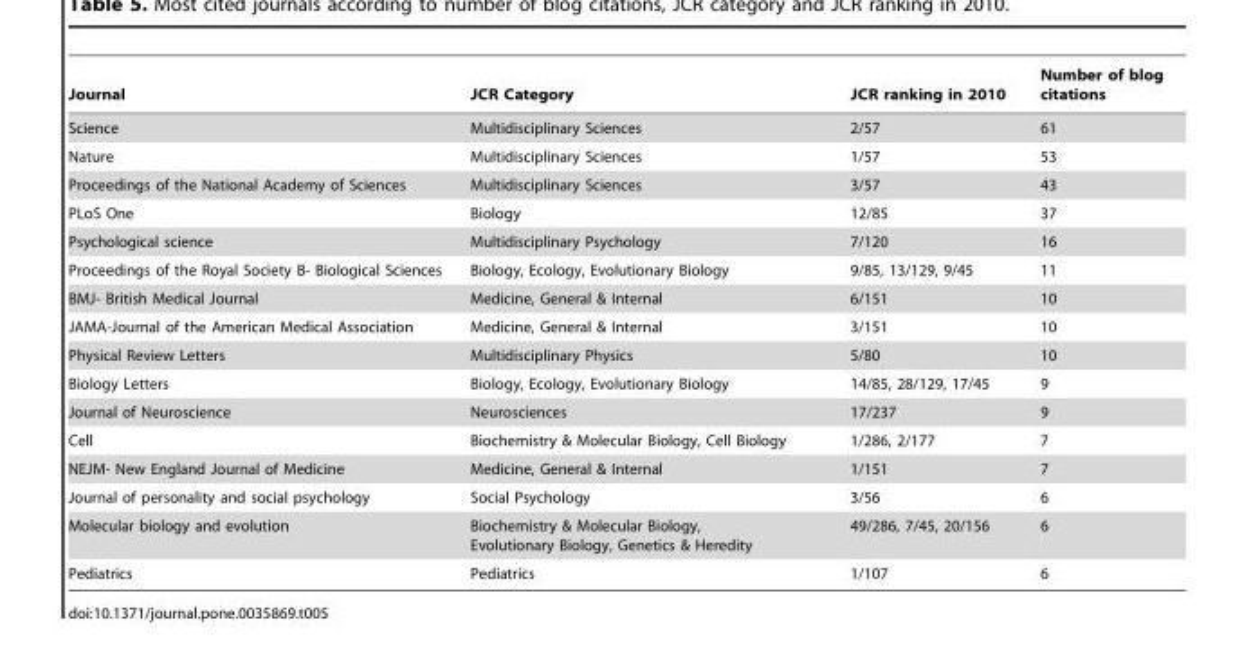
<table><thead><tr><td>Journal</td><td>JCR Category</td><td>JCR ranking in 2010</td><td>Number of blog citations</td></tr></thead><tbody><tr><td>Science</td><td>Multidisciplinary Sciences</td><td>2/57</td><td>61</td></tr><tr><td>Nature</td><td>Multidisciplinary Sciences</td><td>1/57</td><td>53</td></tr><tr><td>Proceedings of the National Academy of Sciences</td><td>Multidisciplinary Sciences</td><td>3/57</td><td>43</td></tr><tr><td>PLoS One</td><td>Biology</td><td>12/85</td><td>37</td></tr><tr><td>Psychological science</td><td>Multidisciplinary Psychology</td><td>7/120</td><td>16</td></tr><tr><td>Proceedings of the Royal Society B- Biological Sciences</td><td>Biology, Ecology, Evolutionary Biology</td><td>9/85, 13/129, 9/45</td><td>11</td></tr><tr><td>BMJ- British Medical Journal</td><td>Medicine, General &amp; Internal</td><td>6/151</td><td>10</td></tr><tr><td>JAMA-Journal of the American Medical Association</td><td>Medicine, General &amp; Internal</td><td>3/151</td><td>10</td></tr><tr><td>Physical Review Letters</td><td>Multidisciplinary Physics</td><td>5/80</td><td>10</td></tr><tr><td>Biology Letters</td><td>Biology, Ecology, Evolutionary Biology</td><td>14/85, 28/129, 17/45</td><td>9</td></tr><tr><td>Journal of Neuroscience</td><td>Neurosciences</td><td>17/237</td><td>9</td></tr><tr><td>Cell</td><td>Biochemistry &amp; Molecular Biology, Cell Biology</td><td>1/286, 2/177</td><td>7</td></tr><tr><td>NEJM- New England Journal of Medicine</td><td>Medicine, General &amp; Internal</td><td>1/151</td><td>7</td></tr><tr><td>Journal of personality and social psychology</td><td>Social Psychology</td><td>3/56</td><td>6</td></tr><tr><td>Molecular biology and evolution</td><td>Biochemistry &amp; Molecular Biology, Evolutionary Biology, Genetics &amp; Heredity</td><td>49/286, 7/45, 20/156</td><td>6</td></tr><tr><td>Pediatrics</td><td>Pediatrics</td><td>1/107</td><td>6</td></tr></tbody></table>